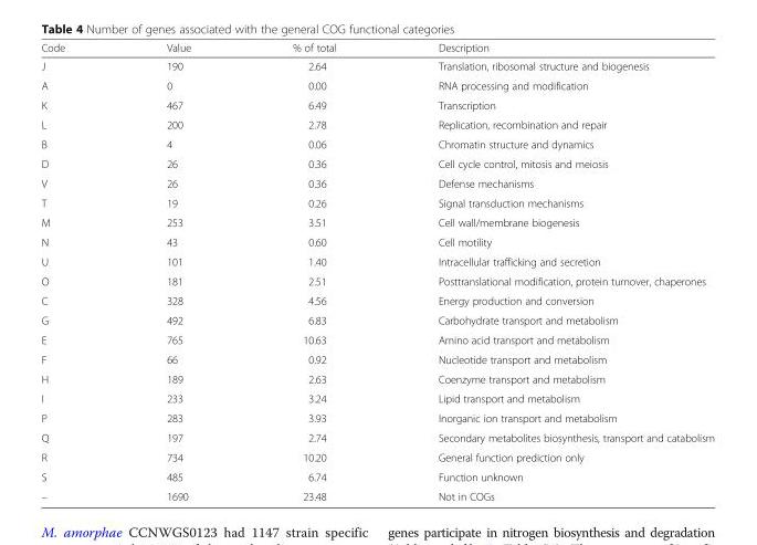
<table><thead><tr><td>Code</td><td>Value</td><td>% of total</td><td>Description</td></tr></thead><tbody><tr><td>J</td><td>190</td><td>2.64</td><td>Translation, ribosomal structure and biogenesis</td></tr><tr><td>A</td><td>0</td><td>0.00</td><td>RNA processing and modification</td></tr><tr><td>K</td><td>467</td><td>6.49</td><td>Transcription</td></tr><tr><td>L</td><td>200</td><td>2.78</td><td>Replication, recombination and repair</td></tr><tr><td>B</td><td>4</td><td>0.06</td><td>Chromatin structure and dynamics</td></tr><tr><td>D</td><td>26</td><td>0.36</td><td>Cell cycle control, mitosis and meiosis</td></tr><tr><td>V</td><td>26</td><td>0.36</td><td>Defense mechanisms</td></tr><tr><td>T</td><td>19</td><td>0.26</td><td>Signal transduction mechanisms</td></tr><tr><td>M</td><td>253</td><td>3.51</td><td>Cell wall/membrane biogenesis</td></tr><tr><td>N</td><td>43</td><td>0.60</td><td>Cell motility</td></tr><tr><td>U</td><td>101</td><td>1.40</td><td>Intracellular trafficking and secretion</td></tr><tr><td>O</td><td>181</td><td>2.51</td><td>Posttranslational modification, protein turnover, chaperones</td></tr><tr><td>C</td><td>328</td><td>4.56</td><td>Energy production and conversion</td></tr><tr><td>G</td><td>492</td><td>6.83</td><td>Carbohydrate transport and metabolism</td></tr><tr><td>E</td><td>765</td><td>10.63</td><td>Amino acid transport and metabolism</td></tr><tr><td>F</td><td>66</td><td>0.92</td><td>Nucleotide transport and metabolism</td></tr><tr><td>H</td><td>189</td><td>2.63</td><td>Coenzyme transport and metabolism</td></tr><tr><td>I</td><td>233</td><td>3.24</td><td>Lipid transport and metabolism</td></tr><tr><td>P</td><td>283</td><td>3.93</td><td>Inorganic ion transport and metabolism</td></tr><tr><td>Q</td><td>197</td><td>2.74</td><td>Secondary metabolites biosynthesis, transport and catabolism</td></tr><tr><td>R</td><td>734</td><td>10.20</td><td>General function prediction only</td></tr><tr><td>S</td><td>485</td><td>6.74</td><td>Function unknown</td></tr><tr><td>–</td><td>1690</td><td>23.48</td><td>Not in COGs</td></tr></tbody></table>